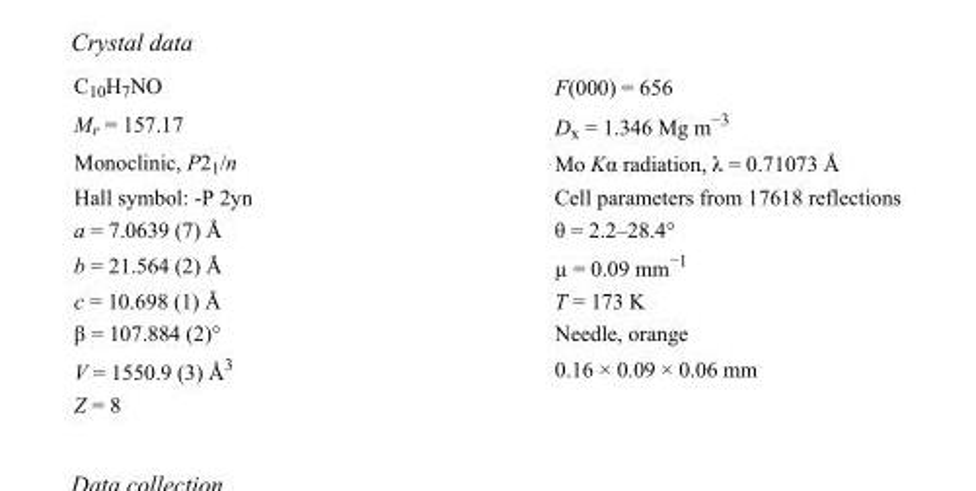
<table><tbody><tr><td>C<sub>10</sub>H<sub>7</sub>NO</td><td>F(000) = 656</td></tr><tr><td>M<sub>r</sub> = 157.17</td><td>D<sub>x</sub> = 1.346 Mg m<sup>−3</sup></td></tr><tr><td>Monoclinic, P2<sub>1</sub>/n</td><td>Mo Kα radiation, λ = 0.71073 Å</td></tr><tr><td>Hall symbol: -P 2yn</td><td>Cell parameters from 17618 reflections</td></tr><tr><td>a = 7.0639 (7) Å</td><td>θ = 2.2–28.4°</td></tr><tr><td>b = 21.564 (2) Å</td><td>µ = 0.09 mm<sup>−1</sup></td></tr><tr><td>c = 10.698 (1) Å</td><td>T = 173 K</td></tr><tr><td>β = 107.884 (2)°</td><td>Needle, orange</td></tr><tr><td>V = 1550.9 (3) Å<sup>3</sup></td><td>0.16 × 0.09 × 0.06 mm</td></tr><tr><td>Z = 8</td><td></td></tr></tbody></table>